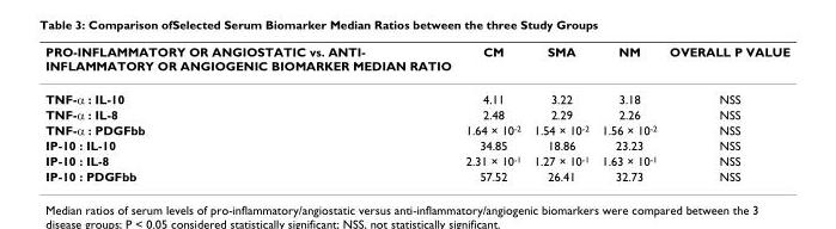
<table><thead><tr><td>PRO-INFLAMMATORY OR ANGIOSTATIC vs. ANTI- INFLAMMATORY OR ANGIOGENIC BIOMARKER MEDIAN RATIO</td><td>CM</td><td>SMA</td><td>NM</td><td>OVERALL P VALUE</td></tr></thead><tbody><tr><td>TNF-α : IL-10</td><td>4.11</td><td>3.22</td><td>3.18</td><td>NSS</td></tr><tr><td>TNF-α : IL-8</td><td>2.48</td><td>2.29</td><td>2.26</td><td>NSS</td></tr><tr><td>TNF-α : PDGFbb</td><td>1.64 × 10<sup>-2</sup></td><td>1.54 × 10<sup>-2</sup></td><td>1.56 × 10<sup>-2</sup></td><td>NSS</td></tr><tr><td>IP-10 : IL-10</td><td>34.85</td><td>18.86</td><td>23.23</td><td>NSS</td></tr><tr><td>IP-10 : IL-8</td><td>2.31 × 10<sup>-1</sup></td><td>1.27 × 10<sup>-1</sup></td><td>1.63 × 10<sup>-1</sup></td><td>NSS</td></tr><tr><td>IP-10 : PDGFbb</td><td>57.52</td><td>26.41</td><td>32.73</td><td>NSS</td></tr></tbody></table>